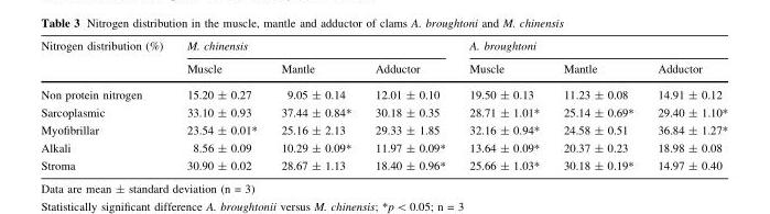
<table><thead><tr><td rowspan="2">Nitrogen distribution (%)</td><td colspan="3">M. chinensis</td><td colspan="3">A. broughtoni</td></tr><tr><td>Muscle</td><td>Mantle</td><td>Adductor</td><td>Muscle</td><td>Mantle</td><td>Adductor</td></tr></thead><tbody><tr><td>Non protein nitrogen</td><td>15.20 ± 0.27</td><td>9.05 ± 0.14</td><td>12.01 ± 0.10</td><td>19.50 ± 0.13</td><td>11.23 ± 0.08</td><td>14.91 ± 0.12</td></tr><tr><td>Sarcoplasmic</td><td>33.10 ± 0.93</td><td>37.44 ± 0.84*</td><td>30.18 ± 0.35</td><td>28.71 ± 1.01*</td><td>25.14 ± 0.69*</td><td>29.40 ± 1.10*</td></tr><tr><td>Myofibrillar</td><td>23.54 ± 0.01*</td><td>25.16 ± 2.13</td><td>29.33 ± 1.85</td><td>32.16 ± 0.94*</td><td>24.58 ± 0.51</td><td>36.84 ± 1.27*</td></tr><tr><td>Alkali</td><td>8.56 ± 0.09</td><td>10.29 ± 0.09*</td><td>11.97 ± 0.09*</td><td>13.64 ± 0.09*</td><td>20.37 ± 0.23</td><td>18.98 ± 0.08</td></tr><tr><td>Stroma</td><td>30.90 ± 0.02</td><td>28.67 ± 1.13</td><td>18.40 ± 0.96*</td><td>25.66 ± 1.03*</td><td>30.18 ± 0.19*</td><td>14.97 ± 0.40</td></tr></tbody></table>